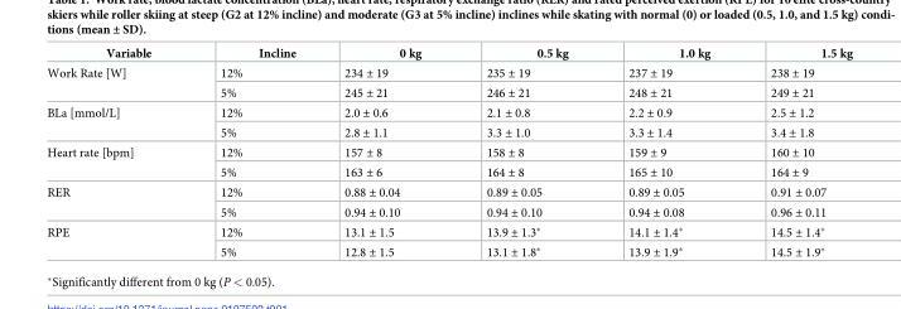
<table><thead><tr><td>Variable</td><td>Incline</td><td>0 kg</td><td>0.5 kg</td><td>1.0 kg</td><td>1.5 kg</td></tr></thead><tbody><tr><td rowspan="2">Work Rate [W]</td><td>12%</td><td>234 ± 19</td><td>235 ± 19</td><td>237 ± 19</td><td>238 ± 19</td></tr><tr><td>5%</td><td>245 ± 21</td><td>246 ± 21</td><td>248 ± 21</td><td>249 ± 21</td></tr><tr><td rowspan="2">BLa [mmol/L]</td><td>12%</td><td>2.0 ± 0.6</td><td>2.1 ± 0.8</td><td>2.2 ± 0.9</td><td>2.5 ± 1.2</td></tr><tr><td>5%</td><td>2.8 ± 1.1</td><td>3.3 ± 1.0</td><td>3.3 ± 1.4</td><td>3.4 ± 1.8</td></tr><tr><td rowspan="2">Heart rate [bpm]</td><td>12%</td><td>157 ± 8</td><td>158 ± 8</td><td>159 ± 9</td><td>160 ± 10</td></tr><tr><td>5%</td><td>163 ± 6</td><td>164 ± 8</td><td>165 ± 10</td><td>164 ± 9</td></tr><tr><td rowspan="2">RER</td><td>12%</td><td>0.88 ± 0.04</td><td>0.89 ± 0.05</td><td>0.89 ± 0.05</td><td>0.91 ± 0.07</td></tr><tr><td>5%</td><td>0.94 ± 0.10</td><td>0.94 ± 0.10</td><td>0.94 ± 0.08</td><td>0.96 ± 0.11</td></tr><tr><td rowspan="2">RPE</td><td>12%</td><td>13.1 ± 1.5</td><td>13.9 ± 1.3*</td><td>14.1 ± 1.4*</td><td>14.5 ± 1.4*</td></tr><tr><td>5%</td><td>12.8 ± 1.5</td><td>13.1 ± 1.8*</td><td>13.9 ± 1.9*</td><td>14.5 ± 1.9*</td></tr></tbody></table>